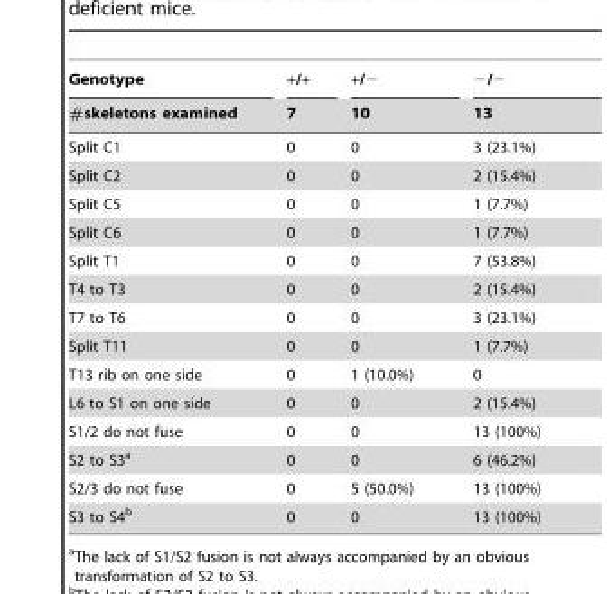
<table><thead><tr><td rowspan="2">Genotype #skeletons examined</td><td rowspan="2">+/+ 7</td><td rowspan="2">+/− 10</td><td rowspan="2">−/− 13</td></tr><tr></tr></thead><tbody><tr><td>Split C1</td><td>0</td><td>0</td><td>3 (23.1%)</td></tr><tr><td>Split C2</td><td>0</td><td>0</td><td>2 (15.4%)</td></tr><tr><td>Split C5</td><td>0</td><td>0</td><td>1 (7.7%)</td></tr><tr><td>Split C6</td><td>0</td><td>0</td><td>1 (7.7%)</td></tr><tr><td>Split T1</td><td>0</td><td>0</td><td>7 (53.8%)</td></tr><tr><td>T4 to T3</td><td>0</td><td>0</td><td>2 (15.4%)</td></tr><tr><td>T7 to T6</td><td>0</td><td>0</td><td>3 (23.1%)</td></tr><tr><td>Split T11</td><td>0</td><td>0</td><td>1 (7.7%)</td></tr><tr><td>T13 rib on one side</td><td>0</td><td>1 (10.0%)</td><td>0</td></tr><tr><td>L6 to S1 on one side</td><td>0</td><td>0</td><td>2 (15.4%)</td></tr><tr><td>S1/2 do not fuse</td><td>0</td><td>0</td><td>13 (100%)</td></tr><tr><td>S2 to S3<sup>a</sup></td><td>0</td><td>0</td><td>6 (46.2%)</td></tr><tr><td>S2/3 do not fuse</td><td>0</td><td>5 (50.0%)</td><td>13 (100%)</td></tr><tr><td>S3 to S4<sup>b</sup></td><td>0</td><td>0</td><td>13 (100%)</td></tr></tbody></table>